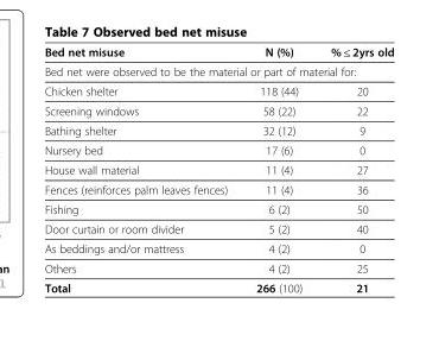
<table><thead><tr><td>Bed net misuse</td><td>N (%)</td><td>% ≤ 2yrs old</td></tr></thead><tbody><tr><td colspan="3">Bed net were observed to be the material or part of material for:</td></tr><tr><td>Chicken shelter</td><td>118 (44)</td><td>20</td></tr><tr><td>Screening windows</td><td>58 (22)</td><td>22</td></tr><tr><td>Bathing shelter</td><td>32 (12)</td><td>9</td></tr><tr><td>Nursery bed</td><td>17 (6)</td><td>0</td></tr><tr><td>House wall material</td><td>11 (4)</td><td>27</td></tr><tr><td>Fences (reinforces palm leaves fences)</td><td>11 (4)</td><td>36</td></tr><tr><td>Fishing</td><td>6 (2)</td><td>50</td></tr><tr><td>Door curtain or room divider</td><td>5 (2)</td><td>40</td></tr><tr><td>As beddings and/or mattress</td><td>4 (2)</td><td>0</td></tr><tr><td>Others</td><td>4 (2)</td><td>25</td></tr><tr><td>Total</td><td>266 (100)</td><td>21</td></tr></tbody></table>